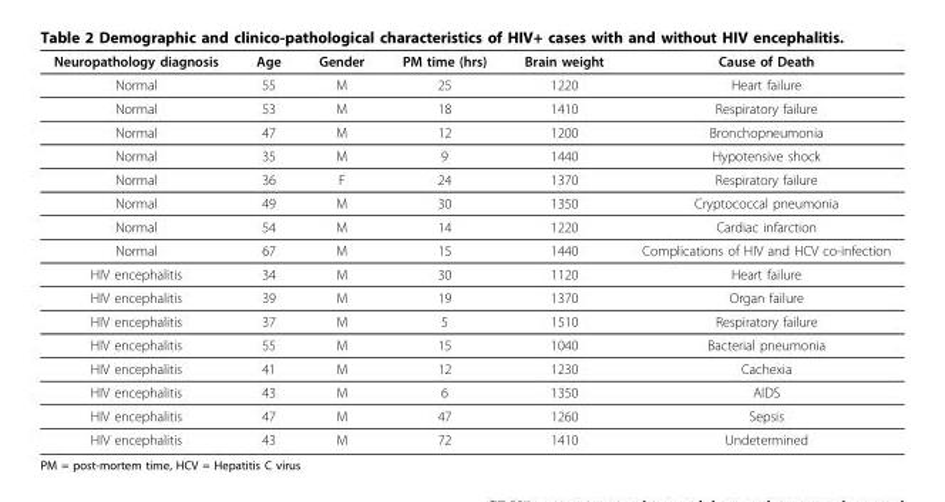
<table><thead><tr><td>Neuropathology diagnosis</td><td>Age</td><td>Gender</td><td>PM time (hrs)</td><td>Brain weight</td><td>Cause of Death</td></tr></thead><tbody><tr><td>Normal</td><td>55</td><td>M</td><td>25</td><td>1220</td><td>Heart failure</td></tr><tr><td>Normal</td><td>53</td><td>M</td><td>18</td><td>1410</td><td>Respiratory failure</td></tr><tr><td>Normal</td><td>47</td><td>M</td><td>12</td><td>1200</td><td>Bronchopneumonia</td></tr><tr><td>Normal</td><td>35</td><td>M</td><td>9</td><td>1440</td><td>Hypotensive shock</td></tr><tr><td>Normal</td><td>36</td><td>F</td><td>24</td><td>1370</td><td>Respiratory failure</td></tr><tr><td>Normal</td><td>49</td><td>M</td><td>30</td><td>1350</td><td>Cryptococcal pneumonia</td></tr><tr><td>Normal</td><td>54</td><td>M</td><td>14</td><td>1220</td><td>Cardiac infarction</td></tr><tr><td>Normal</td><td>67</td><td>M</td><td>15</td><td>1440</td><td>Complications of HIV and HCV co-infection</td></tr><tr><td>HIV encephalitis</td><td>34</td><td>M</td><td>30</td><td>1120</td><td>Heart failure</td></tr><tr><td>HIV encephalitis</td><td>39</td><td>M</td><td>19</td><td>1370</td><td>Organ failure</td></tr><tr><td>HIV encephalitis</td><td>37</td><td>M</td><td>5</td><td>1510</td><td>Respiratory failure</td></tr><tr><td>HIV encephalitis</td><td>55</td><td>M</td><td>15</td><td>1040</td><td>Bacterial pneumonia</td></tr><tr><td>HIV encephalitis</td><td>41</td><td>M</td><td>12</td><td>1230</td><td>Cachexia</td></tr><tr><td>HIV encephalitis</td><td>43</td><td>M</td><td>6</td><td>1350</td><td>AIDS</td></tr><tr><td>HIV encephalitis</td><td>47</td><td>M</td><td>47</td><td>1260</td><td>Sepsis</td></tr><tr><td>HIV encephalitis</td><td>43</td><td>M</td><td>72</td><td>1410</td><td>Undetermined</td></tr></tbody></table>